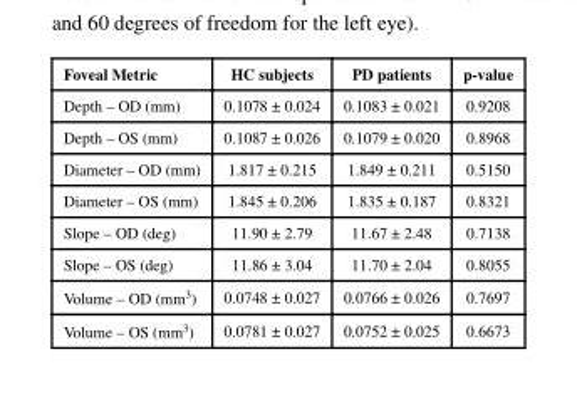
<table><thead><tr><td>Foveal Metric</td><td>HC subjects</td><td>PD patients</td><td>p-value</td></tr></thead><tbody><tr><td>Depth – OD (mm)</td><td>0.1078 ± 0.024</td><td>0.1083 ± 0.021</td><td>0.9208</td></tr><tr><td>Depth – OS (mm)</td><td>0.1087 ± 0.026</td><td>0.1079 ± 0.020</td><td>0.8968</td></tr><tr><td>Diameter – OD (mm)</td><td>1.817 ± 0.215</td><td>1.849 ± 0.211</td><td>0.5150</td></tr><tr><td>Diameter – OS (mm)</td><td>1.845 ± 0.206</td><td>1.835 ± 0.187</td><td>0.8321</td></tr><tr><td>Slope – OD (deg)</td><td>11.90 ± 2.79</td><td>11.67 ± 2.48</td><td>0.7138</td></tr><tr><td>Slope – OS (deg)</td><td>11.86 ± 3.04</td><td>11.70 ± 2.04</td><td>0.8055</td></tr><tr><td>Volume – OD (mm<sup>3</sup>)</td><td>0.0748 ± 0.027</td><td>0.0766 ± 0.026</td><td>0.7697</td></tr><tr><td>Volume – OS (mm<sup>3</sup>)</td><td>0.0781 ± 0.027</td><td>0.0752 ± 0.025</td><td>0.6673</td></tr></tbody></table>